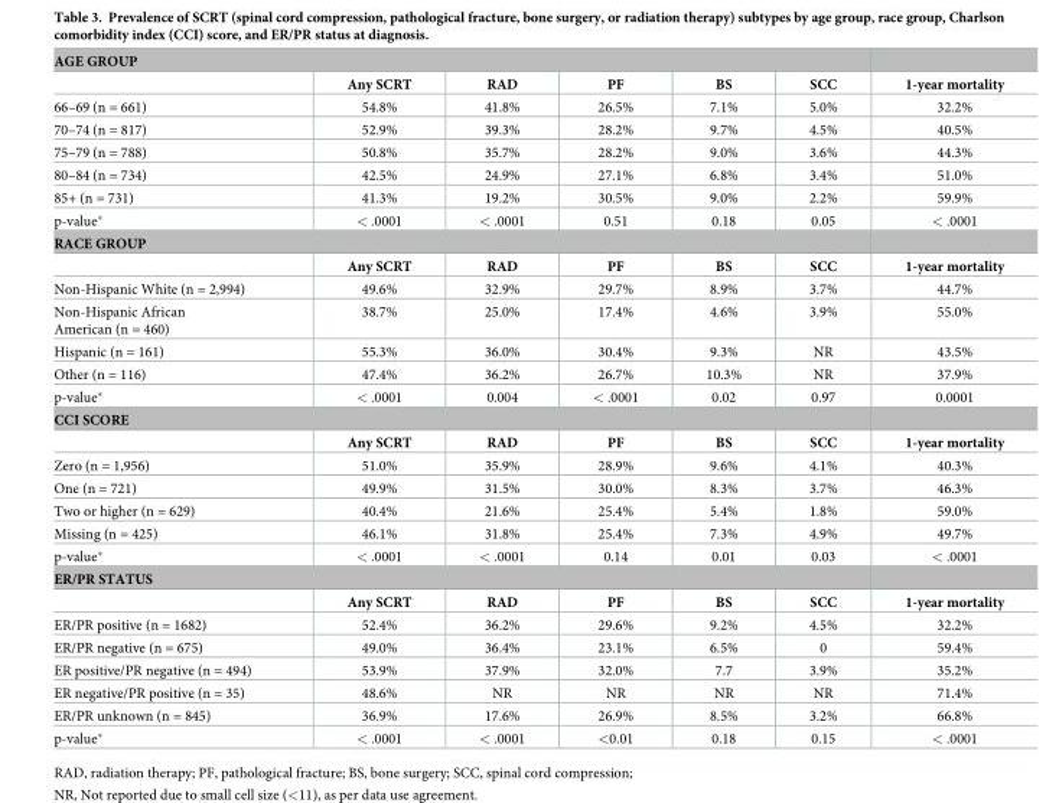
<table><tbody><tr><td colspan="7">AGE GROUP</td></tr><tr><td></td><td>Any SCRT</td><td>RAD</td><td>PF</td><td>BS</td><td>SCC</td><td>1-year mortality</td></tr><tr><td>66–69 (n = 661)</td><td>54.8%</td><td>41.8%</td><td>26.5%</td><td>7.1%</td><td>5.0%</td><td>32.2%</td></tr><tr><td>70–74 (n = 817)</td><td>52.9%</td><td>39.3%</td><td>28.2%</td><td>9.7%</td><td>4.5%</td><td>40.5%</td></tr><tr><td>75–79 (n = 788)</td><td>50.8%</td><td>35.7%</td><td>28.2%</td><td>9.0%</td><td>3.6%</td><td>44.3%</td></tr><tr><td>80–84 (n = 734)</td><td>42.5%</td><td>24.9%</td><td>27.1%</td><td>6.8%</td><td>3.4%</td><td>51.0%</td></tr><tr><td>85+ (n = 731)</td><td>41.3%</td><td>19.2%</td><td>30.5%</td><td>9.0%</td><td>2.2%</td><td>59.9%</td></tr><tr><td>p-value*</td><td>&lt; .0001</td><td>&lt; .0001</td><td>0.51</td><td>0.18</td><td>0.05</td><td>&lt; .0001</td></tr><tr><td colspan="7">RACE GROUP</td></tr><tr><td></td><td>Any SCRT</td><td>RAD</td><td>PF</td><td>BS</td><td>SCC</td><td>1-year mortality</td></tr><tr><td>Non-Hispanic White (n = 2,994)</td><td>49.6%</td><td>32.9%</td><td>29.7%</td><td>8.9%</td><td>3.7%</td><td>44.7%</td></tr><tr><td>Non-Hispanic African American (n = 460)</td><td>38.7%</td><td>25.0%</td><td>17.4%</td><td>4.6%</td><td>3.9%</td><td>55.0%</td></tr><tr><td>Hispanic (n = 161)</td><td>55.3%</td><td>36.0%</td><td>30.4%</td><td>9.3%</td><td>NR</td><td>43.5%</td></tr><tr><td>Other (n = 116)</td><td>47.4%</td><td>36.2%</td><td>26.7%</td><td>10.3%</td><td>NR</td><td>37.9%</td></tr><tr><td>p-value*</td><td>&lt; .0001</td><td>0.004</td><td>&lt; .0001</td><td>0.02</td><td>0.97</td><td>0.0001</td></tr><tr><td colspan="7">CCI SCORE</td></tr><tr><td></td><td>Any SCRT</td><td>RAD</td><td>PF</td><td>BS</td><td>SCC</td><td>1-year mortality</td></tr><tr><td>Zero (n = 1,956)</td><td>51.0%</td><td>35.9%</td><td>28.9%</td><td>9.6%</td><td>4.1%</td><td>40.3%</td></tr><tr><td>One (n = 721)</td><td>49.9%</td><td>31.5%</td><td>30.0%</td><td>8.3%</td><td>3.7%</td><td>46.3%</td></tr><tr><td>Two or higher (n = 629)</td><td>40.4%</td><td>21.6%</td><td>25.4%</td><td>5.4%</td><td>1.8%</td><td>59.0%</td></tr><tr><td>Missing (n = 425)</td><td>46.1%</td><td>31.8%</td><td>25.4%</td><td>7.3%</td><td>4.9%</td><td>49.7%</td></tr><tr><td>p-value*</td><td>&lt; .0001</td><td>&lt; .0001</td><td>0.14</td><td>0.01</td><td>0.03</td><td>&lt; .0001</td></tr><tr><td colspan="7">ER/PR STATUS</td></tr><tr><td></td><td>Any SCRT</td><td>RAD</td><td>PF</td><td>BS</td><td>SCC</td><td>1-year mortality</td></tr><tr><td>ER/PR positive (n = 1682)</td><td>52.4%</td><td>36.2%</td><td>29.6%</td><td>9.2%</td><td>4.5%</td><td>32.2%</td></tr><tr><td>ER/PR negative (n = 675)</td><td>49.0%</td><td>36.4%</td><td>23.1%</td><td>6.5%</td><td>0</td><td>59.4%</td></tr><tr><td>ER positive/PR negative (n = 494)</td><td>53.9%</td><td>37.9%</td><td>32.0%</td><td>7.7</td><td>3.9%</td><td>35.2%</td></tr><tr><td>ER negative/PR positive (n = 35)</td><td>48.6%</td><td>NR</td><td>NR</td><td>NR</td><td>NR</td><td>71.4%</td></tr><tr><td>ER/PR unknown (n = 845)</td><td>36.9%</td><td>17.6%</td><td>26.9%</td><td>8.5%</td><td>3.2%</td><td>66.8%</td></tr><tr><td>p-value*</td><td>&lt; .0001</td><td>&lt; .0001</td><td>&lt;0.01</td><td>0.18</td><td>0.15</td><td>&lt; .0001</td></tr></tbody></table>